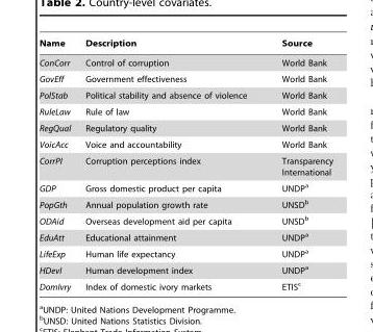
<table><thead><tr><td>Name</td><td>Description</td><td>Source</td></tr></thead><tbody><tr><td>ConCorr</td><td>Control of corruption</td><td>World Bank</td></tr><tr><td>GovEff</td><td>Government effectiveness</td><td>World Bank</td></tr><tr><td>PolStab</td><td>Political stability and absence of violence</td><td>World Bank</td></tr><tr><td>RuleLaw</td><td>Rule of law</td><td>World Bank</td></tr><tr><td>RegQual</td><td>Regulatory quality</td><td>World Bank</td></tr><tr><td>VoicAcc</td><td>Voice and accountability</td><td>World Bank</td></tr><tr><td>CorrPI</td><td>Corruption perceptions index</td><td>Transparency International</td></tr><tr><td>GDP</td><td>Gross domestic product per capita</td><td>UNDP<sup>a</sup></td></tr><tr><td>PopGth</td><td>Annual population growth rate</td><td>UNSD<sup>b</sup></td></tr><tr><td>ODAid</td><td>Overseas development aid per capita</td><td>UNSD<sup>b</sup></td></tr><tr><td>EduAtt</td><td>Educational attainment</td><td>UNDP<sup>a</sup></td></tr><tr><td>LifeExp</td><td>Human life expectancy</td><td>UNDP<sup>a</sup></td></tr><tr><td>HDevI</td><td>Human development index</td><td>UNDP<sup>a</sup></td></tr><tr><td>DomIvry</td><td>Index of domestic ivory markets</td><td>ETIS<sup>c</sup></td></tr></tbody></table>